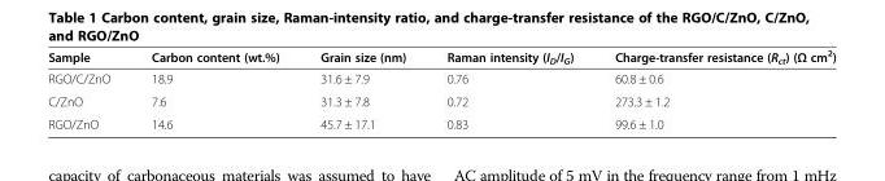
<table><thead><tr><td>Sample</td><td>Carbon content (wt.%)</td><td>Grain size (nm)</td><td>Raman intensity (I<sub>D</sub>/I<sub>G</sub>)</td><td>Charge-transfer resistance (R<sub>ct</sub>) (Ω cm<sup>2</sup>)</td></tr></thead><tbody><tr><td>RGO/C/ZnO</td><td>18.9</td><td>31.6 ± 7.9</td><td>0.76</td><td>60.8 ± 0.6</td></tr><tr><td>C/ZnO</td><td>7.6</td><td>31.3 ± 7.8</td><td>0.72</td><td>273.3 ± 1.2</td></tr><tr><td>RGO/ZnO</td><td>14.6</td><td>45.7 ± 17.1</td><td>0.83</td><td>99.6 ± 1.0</td></tr></tbody></table>